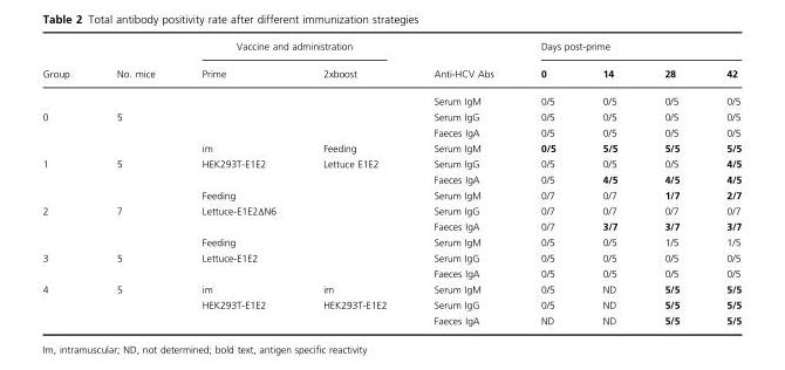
<table><thead><tr><td rowspan="2">Group</td><td rowspan="2">No. mice</td><td colspan="2">Vaccine and administration</td><td rowspan="2">Anti-HCV Abs</td><td colspan="4">Days post-prime</td></tr><tr><td>Prime</td><td>2xboost</td><td>0</td><td>14</td><td>28</td><td>42</td></tr></thead><tbody><tr><td></td><td></td><td></td><td></td><td>Serum IgM</td><td>0/5</td><td>0/5</td><td>0/5</td><td>0/5</td></tr><tr><td rowspan="3">0</td><td>5</td><td></td><td></td><td>Serum IgG</td><td>0/5</td><td>0/5</td><td>0/5</td><td>0/5</td></tr><tr><td></td><td></td><td></td><td>Faeces IgA</td><td>0/5</td><td>0/5</td><td>0/5</td><td>0/5</td></tr><tr><td></td><td>im</td><td>Feeding</td><td>Serum IgM</td><td>0/5</td><td>5/5</td><td>5/5</td><td>5/5</td></tr><tr><td rowspan="3">1</td><td>5</td><td>HEK293T-E1E2</td><td>Lettuce E1E2</td><td>Serum IgG</td><td>0/5</td><td>0/5</td><td>0/5</td><td>4/5</td></tr><tr><td></td><td></td><td></td><td>Faeces IgA</td><td>0/5</td><td>4/5</td><td>4/5</td><td>4/5</td></tr><tr><td></td><td>Feeding</td><td></td><td>Serum IgM</td><td>0/7</td><td>0/7</td><td>1/7</td><td>2/7</td></tr><tr><td rowspan="3">2</td><td>7</td><td>Lettuce-E1E2ΔN6</td><td></td><td>Serum IgG</td><td>0/7</td><td>0/7</td><td>0/7</td><td>0/7</td></tr><tr><td></td><td></td><td></td><td>Faeces IgA</td><td>0/7</td><td>3/7</td><td>3/7</td><td>3/7</td></tr><tr><td></td><td>Feeding</td><td></td><td>Serum IgM</td><td>0/5</td><td>0/5</td><td>1/5</td><td>1/5</td></tr><tr><td rowspan="2">3</td><td>5</td><td>Lettuce-E1E2</td><td></td><td>Serum IgG</td><td>0/5</td><td>0/5</td><td>0/5</td><td>0/5</td></tr><tr><td></td><td></td><td></td><td>Faeces IgA</td><td>0/5</td><td>0/5</td><td>0/5</td><td>0/5</td></tr><tr><td rowspan="3">4</td><td>5</td><td>im</td><td>im</td><td>Serum IgM</td><td>0/5</td><td>ND</td><td>5/5</td><td>5/5</td></tr><tr><td></td><td>HEK293T-E1E2</td><td>HEK293T-E1E2</td><td>Serum IgG</td><td>0/5</td><td>ND</td><td>5/5</td><td>5/5</td></tr><tr><td></td><td></td><td></td><td>Faeces IgA</td><td>ND</td><td>ND</td><td>5/5</td><td>5/5</td></tr></tbody></table>